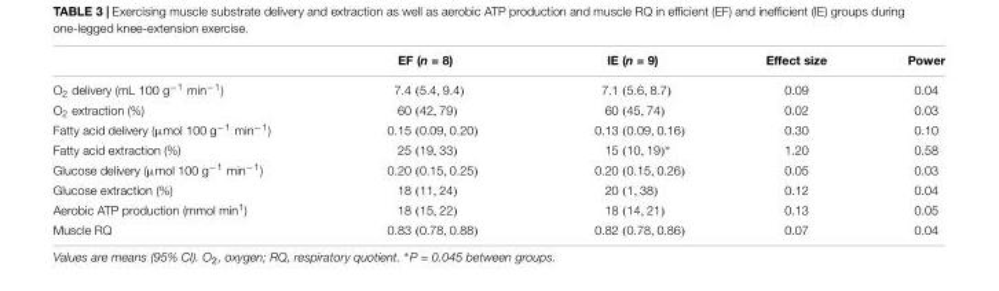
<table><thead><tr><td></td><td>EF (n = 8)</td><td>IE (n = 9)</td><td>Effect size</td><td>Power</td></tr></thead><tbody><tr><td>O<sub>2</sub> delivery (mL 100 g<sup>−1</sup> min<sup>−1</sup>)</td><td>7.4 (5.4, 9.4)</td><td>7.1 (5.6, 8.7)</td><td>0.09</td><td>0.04</td></tr><tr><td>O<sub>2</sub> extraction (%)</td><td>60 (42, 79)</td><td>60 (45, 74)</td><td>0.02</td><td>0.03</td></tr><tr><td>Fatty acid delivery (µmol 100 g<sup>−1</sup> min<sup>−1</sup>)</td><td>0.15 (0.09, 0.20)</td><td>0.13 (0.09, 0.16)</td><td>0.30</td><td>0.10</td></tr><tr><td>Fatty acid extraction (%)</td><td>25 (19, 33)</td><td>15 (10, 19)∗</td><td>1.20</td><td>0.58</td></tr><tr><td>Glucose delivery (µmol 100 g<sup>−1</sup> min<sup>−1</sup>)</td><td>0.20 (0.15, 0.25)</td><td>0.20 (0.15, 0.26)</td><td>0.05</td><td>0.03</td></tr><tr><td>Glucose extraction (%)</td><td>18 (11, 24)</td><td>20 (1, 38)</td><td>0.12</td><td>0.04</td></tr><tr><td>Aerobic ATP production (mmol min<sup>1</sup>)</td><td>18 (15, 22)</td><td>18 (14, 21)</td><td>0.13</td><td>0.05</td></tr><tr><td>Muscle RQ</td><td>0.83 (0.78, 0.88)</td><td>0.82 (0.78, 0.86)</td><td>0.07</td><td>0.04</td></tr></tbody></table>